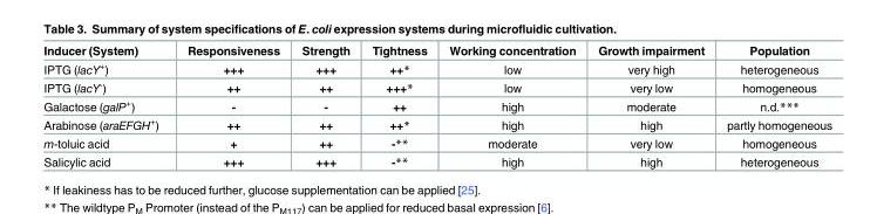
<table><thead><tr><td>Inducer (System)</td><td>Responsiveness</td><td>Strength</td><td>Tightness</td><td>Working concentration</td><td>Growth impairment</td><td>Population</td></tr></thead><tbody><tr><td>IPTG (lacY<sup>+</sup>)</td><td>+++</td><td>+++</td><td>++*</td><td>low</td><td>very high</td><td>heterogeneous</td></tr><tr><td>IPTG (lacY<sup>-</sup>)</td><td>++</td><td>++</td><td>+++*</td><td>low</td><td>very low</td><td>homogeneous</td></tr><tr><td>Galactose (galP<sup>+</sup>)</td><td>-</td><td>-</td><td>++</td><td>high</td><td>moderate</td><td>n.d.***</td></tr><tr><td>Arabinose (araEFGH<sup>+</sup>)</td><td>++</td><td>++</td><td>++*</td><td>high</td><td>high</td><td>partly homogeneous</td></tr><tr><td>m-toluic acid</td><td>+</td><td>++</td><td>-**</td><td>moderate</td><td>very low</td><td>homogeneous</td></tr><tr><td>Salicylic acid</td><td>+++</td><td>+++</td><td>-**</td><td>high</td><td>high</td><td>heterogeneous</td></tr></tbody></table>